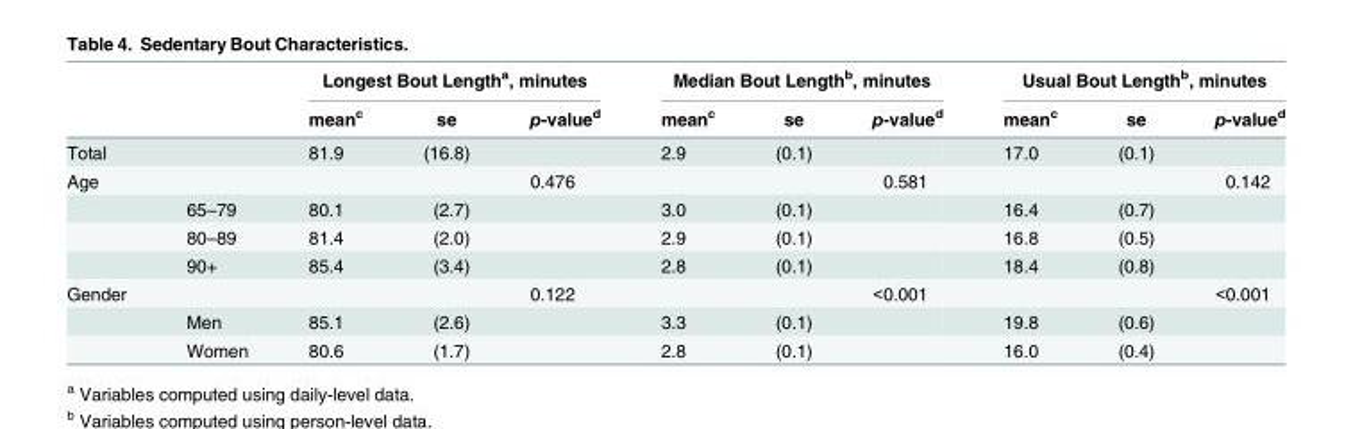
<table><thead><tr><td rowspan="2"></td><td rowspan="2"></td><td colspan="3">Longest Bout Length<sup>a</sup>, minutes</td><td colspan="3">Median Bout Length<sup>b</sup>, minutes</td><td colspan="3">Usual Bout Length<sup>b</sup>, minutes</td></tr><tr><td>mean<sup>c</sup></td><td>se</td><td>p-value<sup>d</sup></td><td>mean<sup>c</sup></td><td>se</td><td>p-value<sup>d</sup></td><td>mean<sup>c</sup></td><td>se</td><td>p-value<sup>d</sup></td></tr></thead><tbody><tr><td>Total</td><td></td><td>81.9</td><td>(16.8)</td><td></td><td>2.9</td><td>(0.1)</td><td></td><td>17.0</td><td>(0.1)</td><td></td></tr><tr><td rowspan="4">Age</td><td></td><td></td><td></td><td>0.476</td><td></td><td></td><td>0.581</td><td></td><td></td><td>0.142</td></tr><tr><td>65–79</td><td>80.1</td><td>(2.7)</td><td></td><td>3.0</td><td>(0.1)</td><td></td><td>16.4</td><td>(0.7)</td><td></td></tr><tr><td>80–89</td><td>81.4</td><td>(2.0)</td><td></td><td>2.9</td><td>(0.1)</td><td></td><td>16.8</td><td>(0.5)</td><td></td></tr><tr><td>90+</td><td>85.4</td><td>(3.4)</td><td></td><td>2.8</td><td>(0.1)</td><td></td><td>18.4</td><td>(0.8)</td><td></td></tr><tr><td rowspan="3">Gender</td><td></td><td></td><td></td><td>0.122</td><td></td><td></td><td>&lt;0.001</td><td></td><td></td><td>&lt;0.001</td></tr><tr><td>Men</td><td>85.1</td><td>(2.6)</td><td></td><td>3.3</td><td>(0.1)</td><td></td><td>19.8</td><td>(0.6)</td><td></td></tr><tr><td>Women</td><td>80.6</td><td>(1.7)</td><td></td><td>2.8</td><td>(0.1)</td><td></td><td>16.0</td><td>(0.4)</td><td></td></tr></tbody></table>